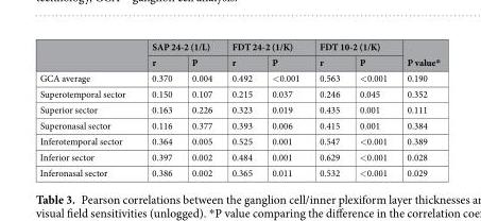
<table><thead><tr><td rowspan="2"></td><td colspan="2">SAP 24-2 (1/L)</td><td colspan="2">FDT 24-2 (1/K)</td><td colspan="2">FDT 10-2 (1/K)</td><td rowspan="2">P value*</td></tr><tr><td>r</td><td>P</td><td>r</td><td>P</td><td>r</td><td>P</td></tr></thead><tbody><tr><td>GCA average</td><td>0.370</td><td>0.004</td><td>0.492</td><td>&lt;0.001</td><td>0.563</td><td>&lt;0.001</td><td>0.190</td></tr><tr><td>Superotemporal sector</td><td>0.150</td><td>0.107</td><td>0.215</td><td>0.037</td><td>0.246</td><td>0.045</td><td>0.352</td></tr><tr><td>Superior sector</td><td>0.163</td><td>0.226</td><td>0.323</td><td>0.019</td><td>0.435</td><td>0.001</td><td>0.111</td></tr><tr><td>Superonasal sector</td><td>0.116</td><td>0.377</td><td>0.393</td><td>0.006</td><td>0.415</td><td>0.001</td><td>0.384</td></tr><tr><td>Inferotemporal sector</td><td>0.364</td><td>0.005</td><td>0.525</td><td>0.001</td><td>0.547</td><td>&lt;0.001</td><td>0.389</td></tr><tr><td>Inferior sector</td><td>0.397</td><td>0.002</td><td>0.484</td><td>0.001</td><td>0.629</td><td>&lt;0.001</td><td>0.028</td></tr><tr><td>Inferonasal sector</td><td>0.386</td><td>0.002</td><td>0.365</td><td>0.011</td><td>0.532</td><td>&lt;0.001</td><td>0.029</td></tr></tbody></table>